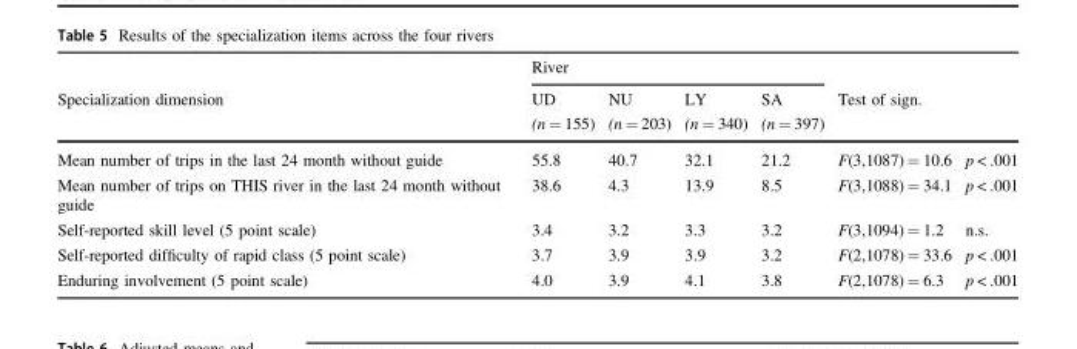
<table><thead><tr><td rowspan="3">Specialization dimension</td><td colspan="4">River</td><td rowspan="3">Test of sign.</td><td rowspan="3"></td></tr><tr><td rowspan="2">UD (n = 155)</td><td rowspan="2">NU (n = 203)</td><td rowspan="2">LY (n = 340)</td><td rowspan="2">SA (n = 397)</td></tr><tr></tr></thead><tbody><tr><td>Mean number of trips in the last 24 month without guide</td><td>55.8</td><td>40.7</td><td>32.1</td><td>21.2</td><td>F(3,1087) = 10.6</td><td>p &lt; .001</td></tr><tr><td>Mean number of trips on THIS river in the last 24 month without guide</td><td>38.6</td><td>4.3</td><td>13.9</td><td>8.5</td><td>F(3,1088) = 34.1</td><td>p &lt; .001</td></tr><tr><td>Self-reported skill level (5 point scale)</td><td>3.4</td><td>3.2</td><td>3.3</td><td>3.2</td><td>F(3,1094) = 1.2</td><td>n.s.</td></tr><tr><td>Self-reported difficulty of rapid class (5 point scale)</td><td>3.7</td><td>3.9</td><td>3.9</td><td>3.2</td><td>F(2,1078) = 33.6</td><td>p &lt; .001</td></tr><tr><td>Enduring involvement (5 point scale)</td><td>4.0</td><td>3.9</td><td>4.1</td><td>3.8</td><td>F(2,1078) = 6.3</td><td>p &lt; .001</td></tr></tbody></table>